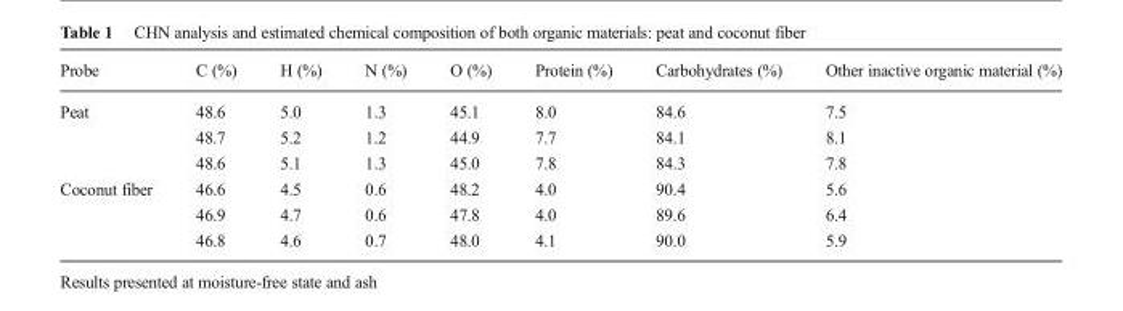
<table><thead><tr><td>Probe</td><td>C (%)</td><td>H (%)</td><td>N (%)</td><td>O (%)</td><td>Protein (%)</td><td>Carbohydrates (%)</td><td>Other inactive organic material (%)</td></tr></thead><tbody><tr><td rowspan="3">Peat</td><td>48.6</td><td>5.0</td><td>1.3</td><td>45.1</td><td>8.0</td><td>84.6</td><td>7.5</td></tr><tr><td>48.7</td><td>5.2</td><td>1.2</td><td>44.9</td><td>7.7</td><td>84.1</td><td>8.1</td></tr><tr><td>48.6</td><td>5.1</td><td>1.3</td><td>45.0</td><td>7.8</td><td>84.3</td><td>7.8</td></tr><tr><td rowspan="3">Coconut fiber</td><td>46.6</td><td>4.5</td><td>0.6</td><td>48.2</td><td>4.0</td><td>90.4</td><td>5.6</td></tr><tr><td>46.9</td><td>4.7</td><td>0.6</td><td>47.8</td><td>4.0</td><td>89.6</td><td>6.4</td></tr><tr><td>46.8</td><td>4.6</td><td>0.7</td><td>48.0</td><td>4.1</td><td>90.0</td><td>5.9</td></tr></tbody></table>